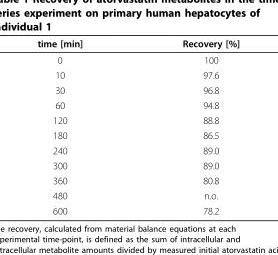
<table><thead><tr><td>time [min]</td><td>Recovery [%]</td></tr></thead><tbody><tr><td>0</td><td>100</td></tr><tr><td>10</td><td>97.6</td></tr><tr><td>30</td><td>96.8</td></tr><tr><td>60</td><td>94.8</td></tr><tr><td>120</td><td>88.8</td></tr><tr><td>180</td><td>86.5</td></tr><tr><td>240</td><td>89.0</td></tr><tr><td>300</td><td>89.0</td></tr><tr><td>360</td><td>80.8</td></tr><tr><td>480</td><td>n.o.</td></tr><tr><td>600</td><td>78.2</td></tr></tbody></table>